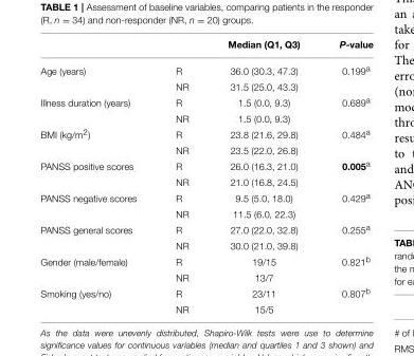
<table><thead><tr><td></td><td></td><td>Median (Q1, Q3)</td><td>P-value</td></tr></thead><tbody><tr><td rowspan="2">Age (years)</td><td>R</td><td>36.0 (30.3, 47.3)</td><td>0.199<sup>a</sup></td></tr><tr><td>NR</td><td>31.5 (25.0, 43.3)</td><td></td></tr><tr><td rowspan="2">Illness duration (years)</td><td>R</td><td>1.5 (0.0, 9.3)</td><td>0.689<sup>a</sup></td></tr><tr><td>NR</td><td>1.5 (0.0, 9.3)</td><td></td></tr><tr><td rowspan="2">BMI (kg/m<sup>2</sup>)</td><td>R</td><td>23.8 (21.6, 29.8)</td><td>0.484<sup>a</sup></td></tr><tr><td>NR</td><td>23.5 (22.0, 26.8)</td><td></td></tr><tr><td rowspan="2">PANSS positive scores</td><td>R</td><td>26.0 (16.3, 21.0)</td><td>0.005<sup>a</sup></td></tr><tr><td>NR</td><td>21.0 (16.8, 24.5)</td><td></td></tr><tr><td rowspan="2">PANSS negative scores</td><td>R</td><td>9.5 (5.0, 18.0)</td><td>0.429<sup>a</sup></td></tr><tr><td>NR</td><td>11.5 (6.0, 22.3)</td><td></td></tr><tr><td rowspan="2">PANSS general scores</td><td>R</td><td>27.0 (22.0, 32.8)</td><td>0.255<sup>a</sup></td></tr><tr><td>NR</td><td>30.0 (21.0, 39.8)</td><td></td></tr><tr><td rowspan="2">Gender (male/female)</td><td>R</td><td>19/15</td><td>0.821<sup>b</sup></td></tr><tr><td>NR</td><td>13/7</td><td></td></tr><tr><td rowspan="2">Smoking (yes/no)</td><td>R</td><td>23/11</td><td>0.807<sup>b</sup></td></tr><tr><td>NR</td><td>15/5</td><td></td></tr></tbody></table>